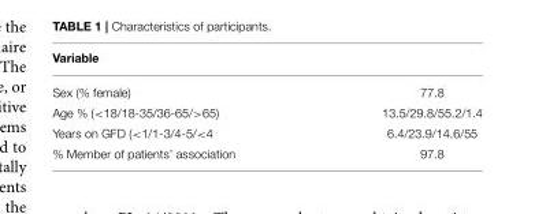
<table><thead><tr><td>Variable</td><td></td></tr></thead><tbody><tr><td>Sex (% female)</td><td>77.8</td></tr><tr><td>Age % (&lt;18/18-35/36-65/&gt;65)</td><td>13.5/29.8/55.2/1.4</td></tr><tr><td>Years on GFD (&lt;1/1-3/4-5/&lt;4</td><td>6.4/23.9/14.6/55</td></tr><tr><td>% Member of patients’ association</td><td>97.8</td></tr></tbody></table>